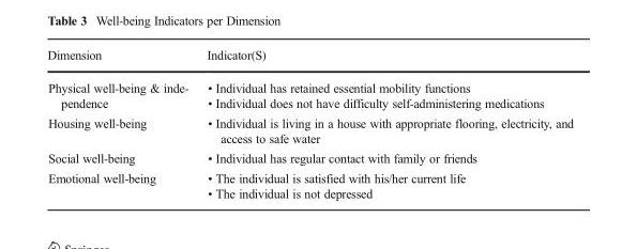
<table><thead><tr><td>Dimension</td><td>Indicator(S)</td></tr></thead><tbody><tr><td>Physical well-being &amp; inde- pendence</td><td>• Individual has retained essential mobility functions • Individual does not have difficulty self-administering medications</td></tr><tr><td>Housing well-being</td><td>• Individual is living in a house with appropriate flooring, electricity, and access to safe water</td></tr><tr><td>Social well-being</td><td>• Individual has regular contact with family or friends</td></tr><tr><td>Emotional well-being</td><td>• The individual is satisfied with his/her current life • The individual is not depressed</td></tr></tbody></table>